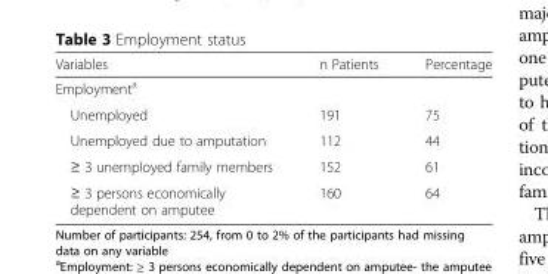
<table><thead><tr><td>Variables</td><td>n Patients</td><td>Percentage</td></tr></thead><tbody><tr><td colspan="3">Employment<sup>a</sup></td></tr><tr><td>Unemployed</td><td>191</td><td>75</td></tr><tr><td>Unemployed due to amputation</td><td>112</td><td>44</td></tr><tr><td>≥ 3 unemployed family members</td><td>152</td><td>61</td></tr><tr><td>≥ 3 persons economically dependent on amputee</td><td>160</td><td>64</td></tr></tbody></table>